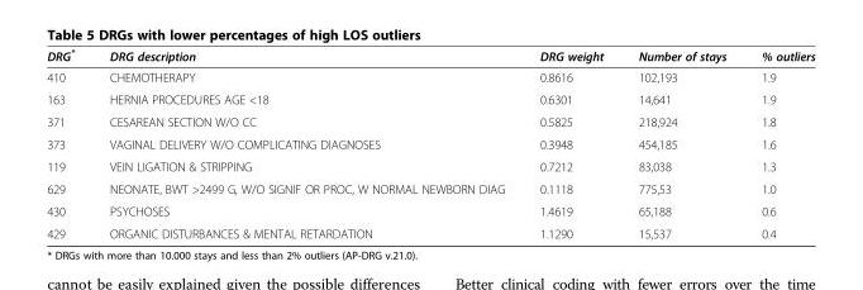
<table><thead><tr><td>DRG*</td><td>DRG description</td><td>DRG weight</td><td>Number of stays</td><td>% outliers</td></tr></thead><tbody><tr><td>410</td><td>CHEMOTHERAPY</td><td>0.8616</td><td>102,193</td><td>1.9</td></tr><tr><td>163</td><td>HERNIA PROCEDURES AGE &lt;18</td><td>0.6301</td><td>14,641</td><td>1.9</td></tr><tr><td>371</td><td>CESAREAN SECTION W/O CC</td><td>0.5825</td><td>218,924</td><td>1.8</td></tr><tr><td>373</td><td>VAGINAL DELIVERY W/O COMPLICATING DIAGNOSES</td><td>0.3948</td><td>454,185</td><td>1.6</td></tr><tr><td>119</td><td>VEIN LIGATION &amp; STRIPPING</td><td>0.7212</td><td>83,038</td><td>1.3</td></tr><tr><td>629</td><td>NEONATE, BWT &gt;2499 G, W/O SIGNIF OR PROC, W NORMAL NEWBORN DIAG</td><td>0.1118</td><td>775,53</td><td>1.0</td></tr><tr><td>430</td><td>PSYCHOSES</td><td>1.4619</td><td>65,188</td><td>0.6</td></tr><tr><td>429</td><td>ORGANIC DISTURBANCES &amp; MENTAL RETARDATION</td><td>1.1290</td><td>15,537</td><td>0.4</td></tr></tbody></table>